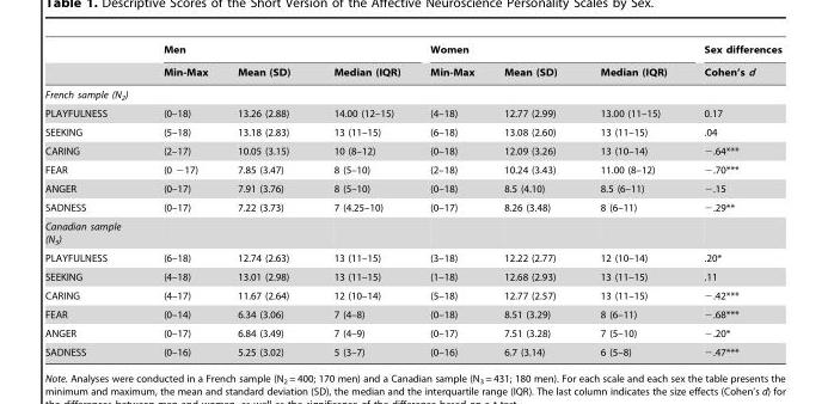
<table><thead><tr><td rowspan="2"></td><td colspan="3">Men</td><td colspan="3">Women</td><td rowspan="2">Sex differences Cohen’s d</td></tr><tr><td>Min-Max</td><td>Mean (SD)</td><td>Median (IQR)</td><td>Min-Max</td><td>Mean (SD)</td><td>Median (IQR)</td></tr></thead><tbody><tr><td colspan="8">French sample (N<sub>2</sub>)</td></tr><tr><td>PLAYFULNESS</td><td>(0–18)</td><td>13.26 (2.88)</td><td>14.00 (12–15)</td><td>(4–18)</td><td>12.77 (2.99)</td><td>13.00 (11–15)</td><td>0.17</td></tr><tr><td>SEEKING</td><td>(5–18)</td><td>13.18 (2.83)</td><td>13 (11–15)</td><td>(6–18)</td><td>13.08 (2.60)</td><td>13 (11–15)</td><td>.04</td></tr><tr><td>CARING</td><td>(2–17)</td><td>10.05 (3.15)</td><td>10 (8–12)</td><td>(0–18)</td><td>12.09 (3.26)</td><td>13 (10–14)</td><td>−.64***</td></tr><tr><td>FEAR</td><td>(0 −17)</td><td>7.85 (3.47)</td><td>8 (5–10)</td><td>(2–18)</td><td>10.24 (3.43)</td><td>11.00 (8–12)</td><td>−.70***</td></tr><tr><td>ANGER</td><td>(0–17)</td><td>7.91 (3.76)</td><td>8 (5–10)</td><td>(0–18)</td><td>8.5 (4.10)</td><td>8.5 (6–11)</td><td>−.15</td></tr><tr><td>SADNESS</td><td>(0–17)</td><td>7.22 (3.73)</td><td>7 (4.25–10)</td><td>(0–17)</td><td>8.26 (3.48)</td><td>8 (6–11)</td><td>−.29**</td></tr><tr><td colspan="8">Canadian sample (N<sub>3</sub>)</td></tr><tr><td>PLAYFULNESS</td><td>(6–18)</td><td>12.74 (2.63)</td><td>13 (11–15)</td><td>(3–18)</td><td>12.22 (2.77)</td><td>12 (10–14)</td><td>.20*</td></tr><tr><td>SEEKING</td><td>(4–18)</td><td>13.01 (2.98)</td><td>13 (11–15)</td><td>(1–18)</td><td>12.68 (2.93)</td><td>13 (11–15)</td><td>.11</td></tr><tr><td>CARING</td><td>(4–17)</td><td>11.67 (2.64)</td><td>12 (10–14)</td><td>(5–18)</td><td>12.77 (2.57)</td><td>13 (11–15)</td><td>−.42***</td></tr><tr><td>FEAR</td><td>(0–14)</td><td>6.34 (3.06)</td><td>7 (4–8)</td><td>(0–18)</td><td>8.51 (3.29)</td><td>8 (6–11)</td><td>−.68***</td></tr><tr><td>ANGER</td><td>(0–17)</td><td>6.84 (3.49)</td><td>7 (4–9)</td><td>(0–17)</td><td>7.51 (3.28)</td><td>7 (5–10)</td><td>−.20*</td></tr><tr><td>SADNESS</td><td>(0–16)</td><td>5.25 (3.02)</td><td>5 (3–7)</td><td>(0–16)</td><td>6.7 (3.14)</td><td>6 (5–8)</td><td>−.47***</td></tr></tbody></table>